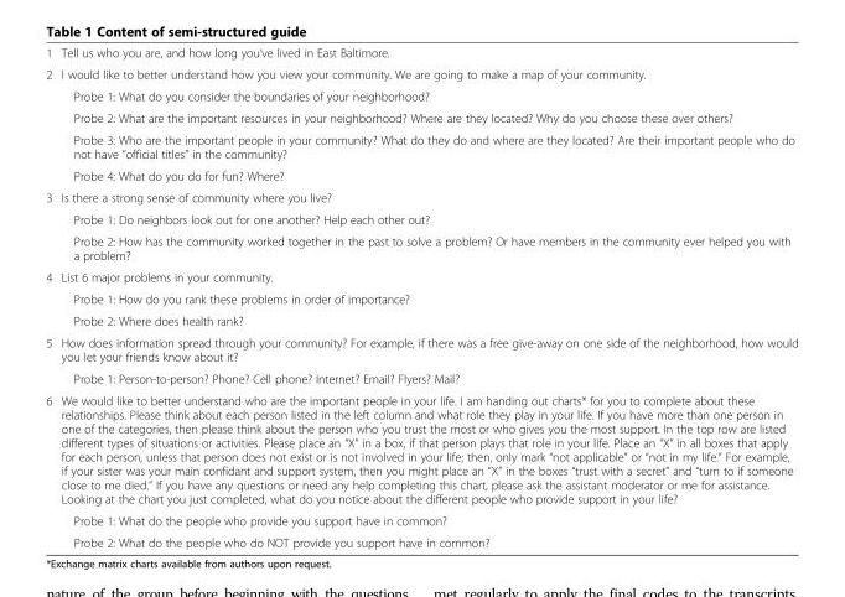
<table><tbody><tr><td>1</td><td>Tell us who you are, and how long you’ve lived in East Baltimore.</td></tr><tr><td rowspan="5">2</td><td>I would like to better understand how you view your community. We are going to make a map of your community.</td></tr><tr><td>Probe 1: What do you consider the boundaries of your neighborhood?</td></tr><tr><td>Probe 2: What are the important resources in your neighborhood? Where are they located? Why do you choose these over others?</td></tr><tr><td>Probe 3: Who are the important people in your community? What do they do and where are they located? Are their important people who do not have “official titles” in the community?</td></tr><tr><td>Probe 4: What do you do for fun? Where?</td></tr><tr><td rowspan="3">3</td><td>Is there a strong sense of community where you live?</td></tr><tr><td>Probe 1: Do neighbors look out for one another? Help each other out?</td></tr><tr><td>Probe 2: How has the community worked together in the past to solve a problem? Or have members in the community ever helped you with a problem?</td></tr><tr><td rowspan="3">4</td><td>List 6 major problems in your community.</td></tr><tr><td>Probe 1: How do you rank these problems in order of importance?</td></tr><tr><td>Probe 2: Where does health rank?</td></tr><tr><td rowspan="2">5</td><td>How does information spread through your community? For example, if there was a free give-away on one side of the neighborhood, how would you let your friends know about it?</td></tr><tr><td>Probe 1: Person-to-person? Phone? Cell phone? Internet? Email? Flyers? Mail?</td></tr><tr><td rowspan="3">6</td><td>We would like to better understand who are the important people in your life. I am handing out charts* for you to complete about these relationships. Please think about each person listed in the left column and what role they play in your life. If you have more than one person in one of the categories, then please think about the person who you trust the most or who gives you the most support. In the top row are listed different types of situations or activities. Please place an “X” in a box, if that person plays that role in your life. Place an “X” in all boxes that apply for each person, unless that person does not exist or is not involved in your life; then, only mark “not applicable” or “not in my life.” For example, if your sister was your main confidant and support system, then you might place an “X” in the boxes “trust with a secret” and “turn to if someone close to me died.” If you have any questions or need any help completing this chart, please ask the assistant moderator or me for assistance. Looking at the chart you just completed, what do you notice about the different people who provide support in your life?</td></tr><tr><td>Probe 1: What do the people who provide you support have in common?</td></tr><tr><td>Probe 2: What do the people who do NOT provide you support have in common?</td></tr></tbody></table>